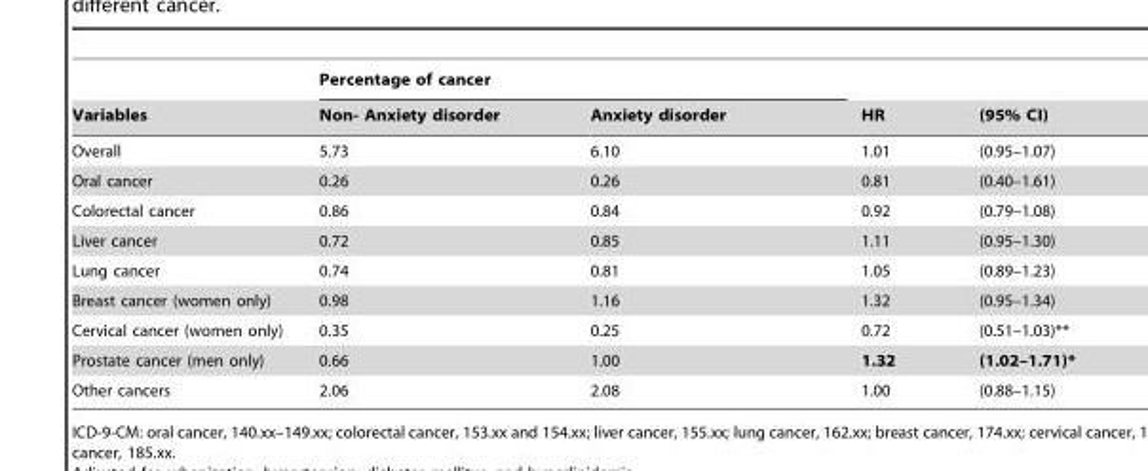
<table><thead><tr><td rowspan="2">Variables</td><td colspan="2">Percentage of cancer</td><td rowspan="2">HR</td><td rowspan="2">(95% CI)</td></tr><tr><td>Non- Anxiety disorder</td><td>Anxiety disorder</td></tr></thead><tbody><tr><td>Overall</td><td>5.73</td><td>6.10</td><td>1.01</td><td>(0.95–1.07)</td></tr><tr><td>Oral cancer</td><td>0.26</td><td>0.26</td><td>0.81</td><td>(0.40–1.61)</td></tr><tr><td>Colorectal cancer</td><td>0.86</td><td>0.84</td><td>0.92</td><td>(0.79–1.08)</td></tr><tr><td>Liver cancer</td><td>0.72</td><td>0.85</td><td>1.11</td><td>(0.95–1.30)</td></tr><tr><td>Lung cancer</td><td>0.74</td><td>0.81</td><td>1.05</td><td>(0.89–1.23)</td></tr><tr><td>Breast cancer (women only)</td><td>0.98</td><td>1.16</td><td>1.32</td><td>(0.95–1.34)</td></tr><tr><td>Cervical cancer (women only)</td><td>0.35</td><td>0.25</td><td>0.72</td><td>(0.51–1.03)**</td></tr><tr><td>Prostate cancer (men only)</td><td>0.66</td><td>1.00</td><td>1.32</td><td>(1.02–1.71)*</td></tr><tr><td>Other cancers</td><td>2.06</td><td>2.08</td><td>1.00</td><td>(0.88–1.15)</td></tr></tbody></table>